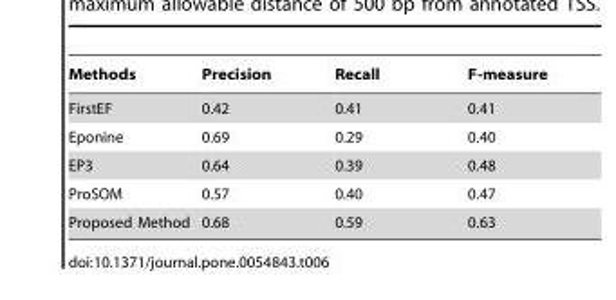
<table><thead><tr><td>Methods</td><td>Precision</td><td>Recall</td><td>F-measure</td></tr></thead><tbody><tr><td>FirstEF</td><td>0.42</td><td>0.41</td><td>0.41</td></tr><tr><td>Eponine</td><td>0.69</td><td>0.29</td><td>0.40</td></tr><tr><td>EP3</td><td>0.64</td><td>0.39</td><td>0.48</td></tr><tr><td>ProSOM</td><td>0.57</td><td>0.40</td><td>0.47</td></tr><tr><td>Proposed Method</td><td>0.68</td><td>0.59</td><td>0.63</td></tr></tbody></table>